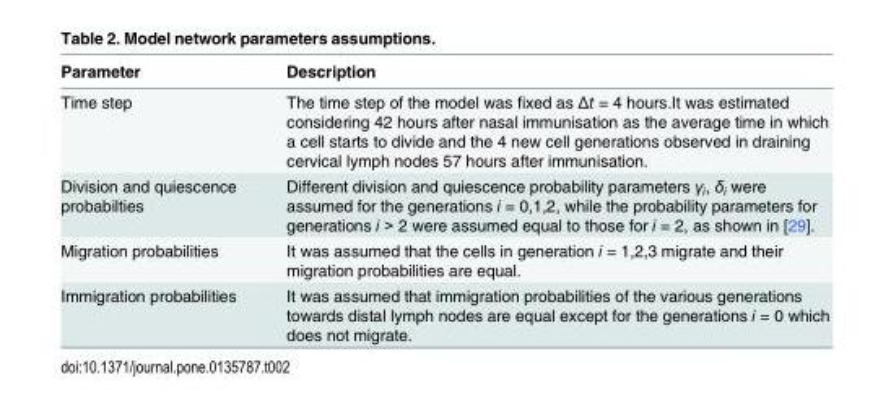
<table><thead><tr><td>Parameter</td><td>Description</td></tr></thead><tbody><tr><td>Time step</td><td>The time step of the model was fixed as Δt = 4 hours.It was estimated considering 42 hours after nasal immunisation as the average time in which a cell starts to divide and the 4 new cell generations observed in draining cervical lymph nodes 57 hours after immunisation.</td></tr><tr><td>Division and quiescence probabilties</td><td>Different division and quiescence probability parameters γ<sub>i</sub>, δ<sub>i</sub> were assumed for the generations i = 0,1,2, while the probability parameters for generations i &gt; 2 were assumed equal to those for i = 2, as shown in [29].</td></tr><tr><td>Migration probabilities</td><td>It was assumed that the cells in generation i = 1,2,3 migrate and their migration probabilities are equal.</td></tr><tr><td>Immigration probabilities</td><td>It was assumed that immigration probabilities of the various generations towards distal lymph nodes are equal except for the generations i = 0 which does not migrate.</td></tr></tbody></table>